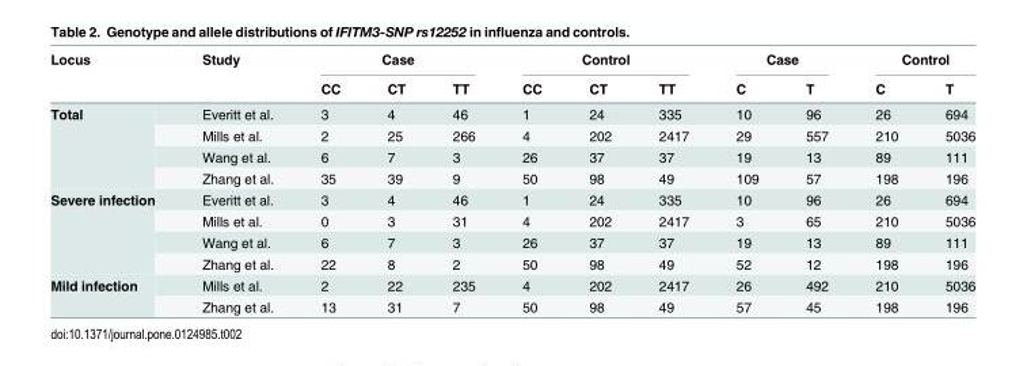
<table><thead><tr><td rowspan="2">Locus</td><td rowspan="2">Study</td><td colspan="3">Case</td><td colspan="3">Control</td><td colspan="2">Case</td><td colspan="2">Control</td></tr><tr><td>CC</td><td>CT</td><td>TT</td><td>CC</td><td>CT</td><td>TT</td><td>C</td><td>T</td><td>C</td><td>T</td></tr></thead><tbody><tr><td rowspan="4">Total</td><td>Everitt et al.</td><td>3</td><td>4</td><td>46</td><td>1</td><td>24</td><td>335</td><td>10</td><td>96</td><td>26</td><td>694</td></tr><tr><td>Mills et al.</td><td>2</td><td>25</td><td>266</td><td>4</td><td>202</td><td>2417</td><td>29</td><td>557</td><td>210</td><td>5036</td></tr><tr><td>Wang et al.</td><td>6</td><td>7</td><td>3</td><td>26</td><td>37</td><td>37</td><td>19</td><td>13</td><td>89</td><td>111</td></tr><tr><td>Zhang et al.</td><td>35</td><td>39</td><td>9</td><td>50</td><td>98</td><td>49</td><td>109</td><td>57</td><td>198</td><td>196</td></tr><tr><td rowspan="4">Severe infection</td><td>Everitt et al.</td><td>3</td><td>4</td><td>46</td><td>1</td><td>24</td><td>335</td><td>10</td><td>96</td><td>26</td><td>694</td></tr><tr><td>Mills et al.</td><td>0</td><td>3</td><td>31</td><td>4</td><td>202</td><td>2417</td><td>3</td><td>65</td><td>210</td><td>5036</td></tr><tr><td>Wang et al.</td><td>6</td><td>7</td><td>3</td><td>26</td><td>37</td><td>37</td><td>19</td><td>13</td><td>89</td><td>111</td></tr><tr><td>Zhang et al.</td><td>22</td><td>8</td><td>2</td><td>50</td><td>98</td><td>49</td><td>52</td><td>12</td><td>198</td><td>196</td></tr><tr><td rowspan="2">Mild infection</td><td>Mills et al.</td><td>2</td><td>22</td><td>235</td><td>4</td><td>202</td><td>2417</td><td>26</td><td>492</td><td>210</td><td>5036</td></tr><tr><td>Zhang et al.</td><td>13</td><td>31</td><td>7</td><td>50</td><td>98</td><td>49</td><td>57</td><td>45</td><td>198</td><td>196</td></tr></tbody></table>